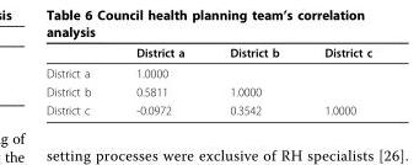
<table><thead><tr><td></td><td>District a</td><td>District b</td><td>District c</td></tr></thead><tbody><tr><td>District a</td><td>1.0000</td><td></td><td></td></tr><tr><td>District b</td><td>0.5811</td><td>1.0000</td><td></td></tr><tr><td>District c</td><td>-0.0972</td><td>0.3542</td><td>1.0000</td></tr></tbody></table>